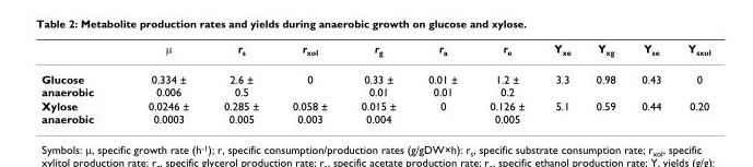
<table><thead><tr><td></td><td>μ</td><td>r<sub>s</sub></td><td>r<sub>xol</sub></td><td>r<sub>g</sub></td><td>r<sub>a</sub></td><td>r<sub>e</sub></td><td>Y<sub>xe</sub></td><td>Y<sub>xg</sub></td><td>Y<sub>se</sub></td><td>Y<sub>sxol</sub></td></tr></thead><tbody><tr><td>Glucose anaerobic</td><td>0.334 ± 0.006</td><td>2.6 ± 0.5</td><td>0</td><td>0.33 ± 0.01</td><td>0.01 ± 0.01</td><td>1.2 ± 0.2</td><td>3.3</td><td>0.98</td><td>0.43</td><td>0</td></tr><tr><td>Xylose anaerobic</td><td>0.0246 ± 0.0003</td><td>0.285 ± 0.005</td><td>0.058 ± 0.003</td><td>0.015 ± 0.004</td><td>0</td><td>0.126 ± 0.005</td><td>5.1</td><td>0.59</td><td>0.44</td><td>0.20</td></tr></tbody></table>